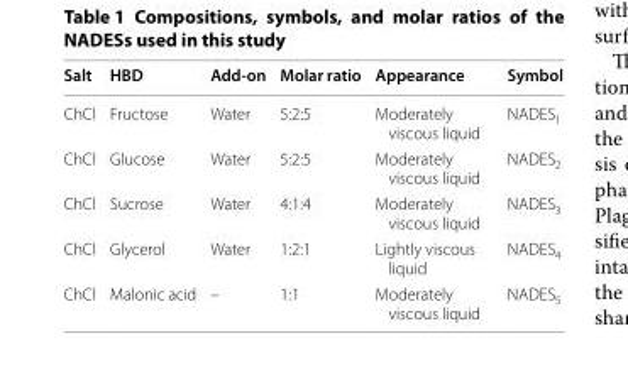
<table><thead><tr><td>Salt</td><td>HBD</td><td>Add‑on</td><td>Molar ratio</td><td>Appearance</td><td>Symbol</td></tr></thead><tbody><tr><td>ChCl</td><td>Fructose</td><td>Water</td><td>5:2:5</td><td>Moderately viscous liquid</td><td>NADES<sub>1</sub></td></tr><tr><td>ChCl</td><td>Glucose</td><td>Water</td><td>5:2:5</td><td>Moderately viscous liquid</td><td>NADES<sub>2</sub></td></tr><tr><td>ChCl</td><td>Sucrose</td><td>Water</td><td>4:1:4</td><td>Moderately viscous liquid</td><td>NADES<sub>3</sub></td></tr><tr><td>ChCl</td><td>Glycerol</td><td>Water</td><td>1:2:1</td><td>Lightly viscous liquid</td><td>NADES<sub>4</sub></td></tr><tr><td>ChCl</td><td>Malonic acid</td><td>–</td><td>1:1</td><td>Moderately viscous liquid</td><td>NADES<sub>5</sub></td></tr></tbody></table>